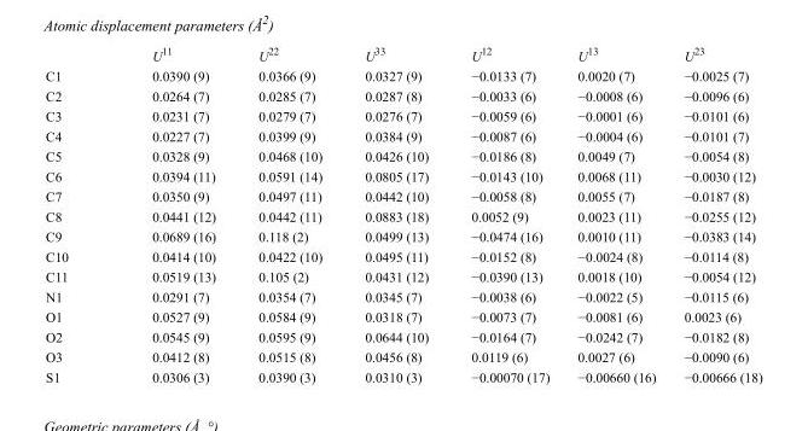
<table><thead><tr><td></td><td>U<sup>11</sup></td><td>U<sup>22</sup></td><td>U<sup>33</sup></td><td>U<sup>12</sup></td><td>U<sup>13</sup></td><td>U<sup>23</sup></td></tr></thead><tbody><tr><td>C1</td><td>0.0390 (9)</td><td>0.0366 (9)</td><td>0.0327 (9)</td><td>−0.0133 (7)</td><td>0.0020 (7)</td><td>−0.0025 (7)</td></tr><tr><td>C2</td><td>0.0264 (7)</td><td>0.0285 (7)</td><td>0.0287 (8)</td><td>−0.0033 (6)</td><td>−0.0008 (6)</td><td>−0.0096 (6)</td></tr><tr><td>C3</td><td>0.0231 (7)</td><td>0.0279 (7)</td><td>0.0276 (7)</td><td>−0.0059 (6)</td><td>−0.0001 (6)</td><td>−0.0101 (6)</td></tr><tr><td>C4</td><td>0.0227 (7)</td><td>0.0399 (9)</td><td>0.0384 (9)</td><td>−0.0087 (6)</td><td>−0.0004 (6)</td><td>−0.0101 (7)</td></tr><tr><td>C5</td><td>0.0328 (9)</td><td>0.0468 (10)</td><td>0.0426 (10)</td><td>−0.0186 (8)</td><td>0.0049 (7)</td><td>−0.0054 (8)</td></tr><tr><td>C6</td><td>0.0394 (11)</td><td>0.0591 (14)</td><td>0.0805 (17)</td><td>−0.0143 (10)</td><td>0.0068 (11)</td><td>−0.0030 (12)</td></tr><tr><td>C7</td><td>0.0350 (9)</td><td>0.0497 (11)</td><td>0.0442 (10)</td><td>−0.0058 (8)</td><td>0.0055 (7)</td><td>−0.0187 (8)</td></tr><tr><td>C8</td><td>0.0441 (12)</td><td>0.0442 (11)</td><td>0.0883 (18)</td><td>0.0052 (9)</td><td>0.0023 (11)</td><td>−0.0255 (12)</td></tr><tr><td>C9</td><td>0.0689 (16)</td><td>0.118 (2)</td><td>0.0499 (13)</td><td>−0.0474 (16)</td><td>0.0010 (11)</td><td>−0.0383 (14)</td></tr><tr><td>C10</td><td>0.0414 (10)</td><td>0.0422 (10)</td><td>0.0495 (11)</td><td>−0.0152 (8)</td><td>−0.0024 (8)</td><td>−0.0114 (8)</td></tr><tr><td>C11</td><td>0.0519 (13)</td><td>0.105 (2)</td><td>0.0431 (12)</td><td>−0.0390 (13)</td><td>0.0018 (10)</td><td>−0.0054 (12)</td></tr><tr><td>N1</td><td>0.0291 (7)</td><td>0.0354 (7)</td><td>0.0345 (7)</td><td>−0.0038 (6)</td><td>−0.0022 (5)</td><td>−0.0115 (6)</td></tr><tr><td>O1</td><td>0.0527 (9)</td><td>0.0584 (9)</td><td>0.0318 (7)</td><td>−0.0073 (7)</td><td>−0.0081 (6)</td><td>0.0023 (6)</td></tr><tr><td>O2</td><td>0.0545 (9)</td><td>0.0595 (9)</td><td>0.0644 (10)</td><td>−0.0164 (7)</td><td>−0.0242 (7)</td><td>−0.0182 (8)</td></tr><tr><td>O3</td><td>0.0412 (8)</td><td>0.0515 (8)</td><td>0.0456 (8)</td><td>0.0119 (6)</td><td>0.0027 (6)</td><td>−0.0090 (6)</td></tr><tr><td>S1</td><td>0.0306 (3)</td><td>0.0390 (3)</td><td>0.0310 (3)</td><td>−0.00070 (17)</td><td>−0.00660 (16)</td><td>−0.00666 (18)</td></tr></tbody></table>